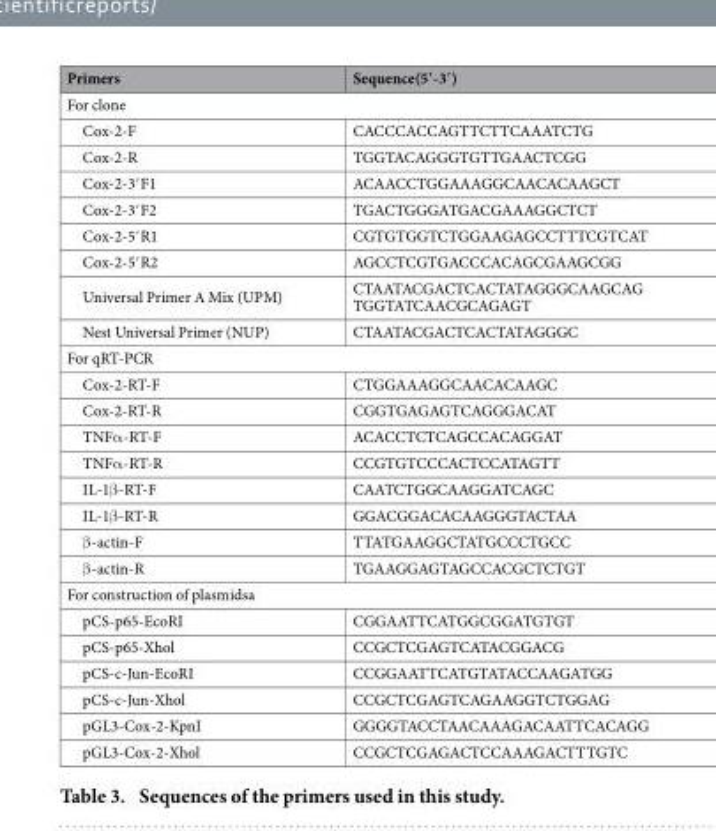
<table><thead><tr><td>Primers</td><td>Sequence(5′-3′)</td></tr></thead><tbody><tr><td colspan="2">For clone</td></tr><tr><td>Cox-2-F</td><td>CACCCACCAGTTCTTCAAATCTG</td></tr><tr><td>Cox-2-R</td><td>TGGTACAGGGTGTTGAACTCGG</td></tr><tr><td>Cox-2-3′ F1</td><td>ACAACCTGGAAAGGCAACACAAGCT</td></tr><tr><td>Cox-2-3′ F2</td><td>TGACTGGGATGACGAAAGGCTCT</td></tr><tr><td>Cox-2-5′ R1</td><td>CGTGTGGTCTGGAAGAGCCTTTCGTCAT</td></tr><tr><td>Cox-2-5′ R2</td><td>AGCCTCGTGACCCACAGCGAAGCGG</td></tr><tr><td>Universal Primer A Mix (UPM)</td><td>CTAATACGACTCACTATAGGGCAAGCAG TGGTATCAACGCAGAGT</td></tr><tr><td>Nest Universal Primer (NUP)</td><td>CTAATACGACTCACTATAGGGC</td></tr><tr><td colspan="2">For qRT-PCR</td></tr><tr><td>Cox-2-RT-F</td><td>CTGGAAAGGCAACACAAGC</td></tr><tr><td>Cox-2-RT-R</td><td>CGGTGAGAGTCAGGGACAT</td></tr><tr><td>TNFα -RT-F</td><td>ACACCTCTCAGCCACAGGAT</td></tr><tr><td>TNFα -RT-R</td><td>CCGTGTCCCACTCCATAGTT</td></tr><tr><td>IL-1β -RT-F</td><td>CAATCTGGCAAGGATCAGC</td></tr><tr><td>IL-1β -RT-R</td><td>GGACGGACACAAGGGTACTAA</td></tr><tr><td>β -actin-F</td><td>TTATGAAGGCTATGCCCTGCC</td></tr><tr><td>β -actin-R</td><td>TGAAGGAGTAGCCACGCTCTGT</td></tr><tr><td colspan="2">For construction of plasmidsa</td></tr><tr><td>pCS-p65-EcoRI</td><td>CGGAATTCATGGCGGATGTGT</td></tr><tr><td>pCS-p65-Xhol</td><td>CCGCTCGAGTCATACGGACG</td></tr><tr><td>pCS-c-Jun-EcoRI</td><td>CCGGAATTCATGTATACCAAGATGG</td></tr><tr><td>pCS-c-Jun-Xhol</td><td>CCGCTCGAGTCAGAAGGTCTGGAG</td></tr><tr><td>pGL3-Cox-2-KpnI</td><td>GGGGTACCTAACAAAGACAATTCACAGG</td></tr><tr><td>pGL3-Cox-2-Xhol</td><td>CCGCTCGAGACTCCAAAGACTTTGTC</td></tr></tbody></table>